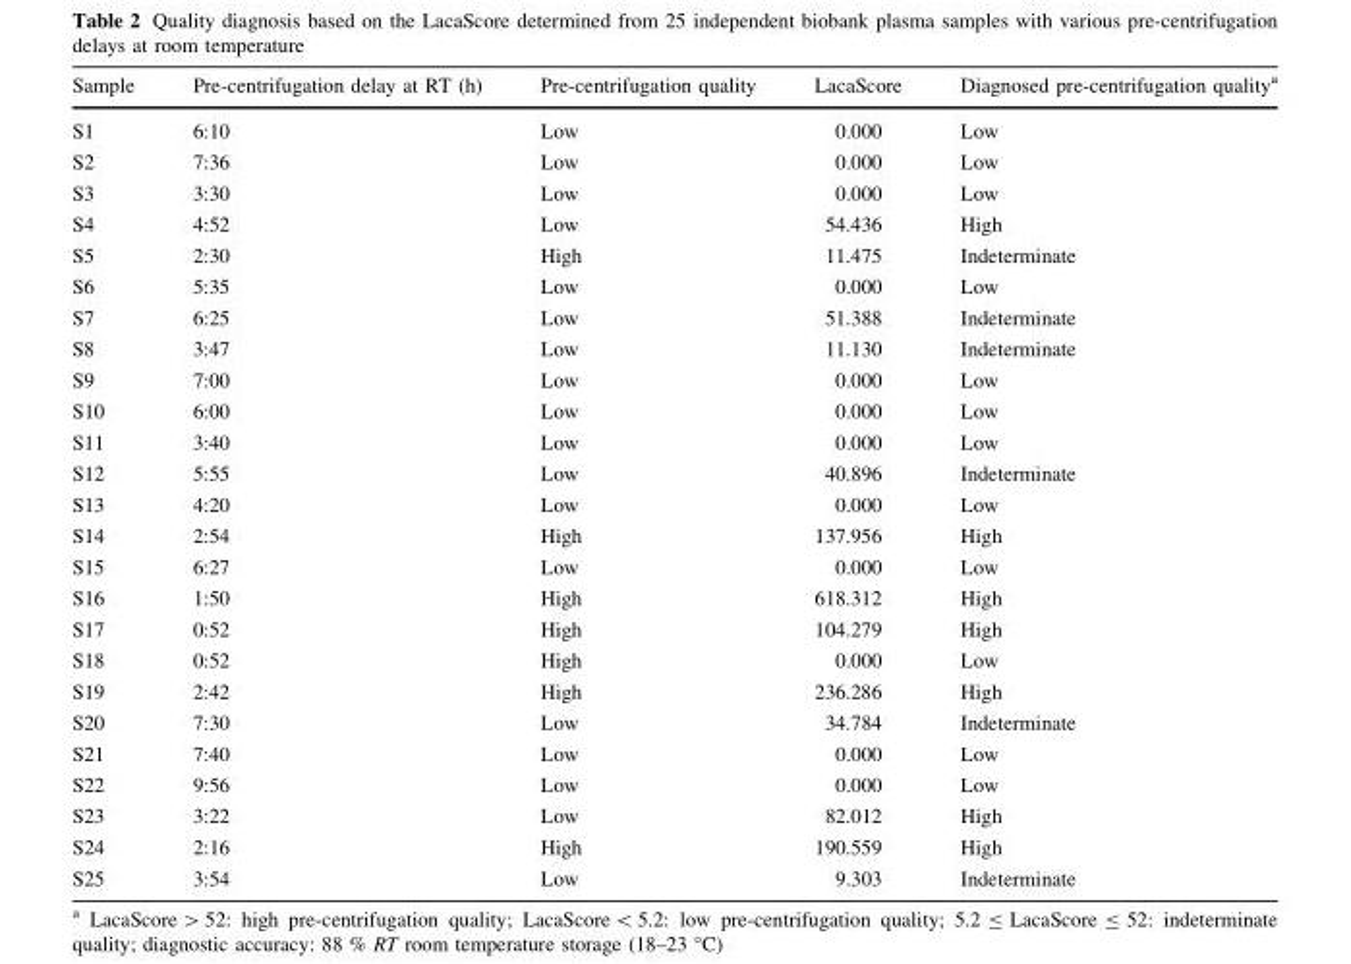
<table><thead><tr><td>Sample</td><td>Pre-centrifugation delay at RT (h)</td><td>Pre-centrifugation quality</td><td>LacaScore</td><td>Diagnosed pre-centrifugation quality<sup>a</sup></td></tr></thead><tbody><tr><td>S1</td><td>6:10</td><td>Low</td><td>0.000</td><td>Low</td></tr><tr><td>S2</td><td>7:36</td><td>Low</td><td>0.000</td><td>Low</td></tr><tr><td>S3</td><td>3:30</td><td>Low</td><td>0.000</td><td>Low</td></tr><tr><td>S4</td><td>4:52</td><td>Low</td><td>54.436</td><td>High</td></tr><tr><td>S5</td><td>2:30</td><td>High</td><td>11.475</td><td>Indeterminate</td></tr><tr><td>S6</td><td>5:35</td><td>Low</td><td>0.000</td><td>Low</td></tr><tr><td>S7</td><td>6:25</td><td>Low</td><td>51.388</td><td>Indeterminate</td></tr><tr><td>S8</td><td>3:47</td><td>Low</td><td>11.130</td><td>Indeterminate</td></tr><tr><td>S9</td><td>7:00</td><td>Low</td><td>0.000</td><td>Low</td></tr><tr><td>S10</td><td>6:00</td><td>Low</td><td>0.000</td><td>Low</td></tr><tr><td>S11</td><td>3:40</td><td>Low</td><td>0.000</td><td>Low</td></tr><tr><td>S12</td><td>5:55</td><td>Low</td><td>40.896</td><td>Indeterminate</td></tr><tr><td>S13</td><td>4:20</td><td>Low</td><td>0.000</td><td>Low</td></tr><tr><td>S14</td><td>2:54</td><td>High</td><td>137.956</td><td>High</td></tr><tr><td>S15</td><td>6:27</td><td>Low</td><td>0.000</td><td>Low</td></tr><tr><td>S16</td><td>1:50</td><td>High</td><td>618.312</td><td>High</td></tr><tr><td>S17</td><td>0:52</td><td>High</td><td>104.279</td><td>High</td></tr><tr><td>S18</td><td>0:52</td><td>High</td><td>0.000</td><td>Low</td></tr><tr><td>S19</td><td>2:42</td><td>High</td><td>236.286</td><td>High</td></tr><tr><td>S20</td><td>7:30</td><td>Low</td><td>34.784</td><td>Indeterminate</td></tr><tr><td>S21</td><td>7:40</td><td>Low</td><td>0.000</td><td>Low</td></tr><tr><td>S22</td><td>9:56</td><td>Low</td><td>0.000</td><td>Low</td></tr><tr><td>S23</td><td>3:22</td><td>Low</td><td>82.012</td><td>High</td></tr><tr><td>S24</td><td>2:16</td><td>High</td><td>190.559</td><td>High</td></tr><tr><td>S25</td><td>3:54</td><td>Low</td><td>9.303</td><td>Indeterminate</td></tr></tbody></table>